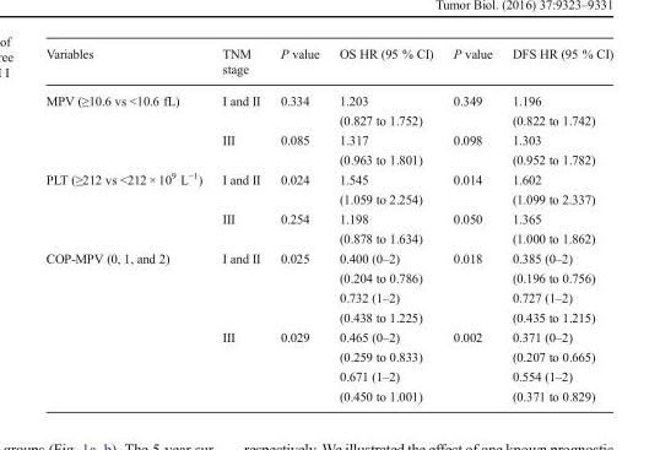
<table><thead><tr><td>Variables</td><td>TNM stage</td><td>P value</td><td>OS HR (95 % CI)</td><td>P value</td><td>DFS HR (95 % CI)</td></tr></thead><tbody><tr><td rowspan="4">MPV (≥10.6 vs &lt;10.6 fL)</td><td rowspan="2">I and II</td><td rowspan="2">0.334</td><td>1.203</td><td rowspan="2">0.349</td><td>1.196</td></tr><tr><td>(0.827 to 1.752)</td><td>(0.822 to 1.742)</td></tr><tr><td rowspan="2">III</td><td rowspan="2">0.085</td><td>1.317</td><td rowspan="2">0.098</td><td>1.303</td></tr><tr><td>(0.963 to 1.801)</td><td>(0.952 to 1.782)</td></tr><tr><td rowspan="4">PLT (≥212 vs &lt;212 × 10<sup>9</sup> L<sup>−1</sup>)</td><td rowspan="2">I and II</td><td rowspan="2">0.024</td><td>1.545</td><td rowspan="2">0.014</td><td>1.602</td></tr><tr><td>(1.059 to 2.254)</td><td>(1.099 to 2.337)</td></tr><tr><td rowspan="2">III</td><td rowspan="2">0.254</td><td>1.198</td><td rowspan="2">0.050</td><td>1.365</td></tr><tr><td>(0.878 to 1.634)</td><td>(1.000 to 1.862)</td></tr><tr><td rowspan="8">COP-MPV (0, 1, and 2)</td><td rowspan="4">I and II</td><td rowspan="4">0.025</td><td>0.400 (0–2)</td><td rowspan="4">0.018</td><td>0.385 (0–2)</td></tr><tr><td>(0.204 to 0.786)</td><td>(0.196 to 0.756)</td></tr><tr><td>0.732 (1–2)</td><td>0.727 (1–2)</td></tr><tr><td>(0.438 to 1.225)</td><td>(0.435 to 1.215)</td></tr><tr><td rowspan="4">III</td><td rowspan="4">0.029</td><td>0.465 (0–2)</td><td rowspan="4">0.002</td><td>0.371 (0–2)</td></tr><tr><td>(0.259 to 0.833)</td><td>(0.207 to 0.665)</td></tr><tr><td>0.671 (1–2)</td><td>0.554 (1–2)</td></tr><tr><td>(0.450 to 1.001)</td><td>(0.371 to 0.829)</td></tr></tbody></table>